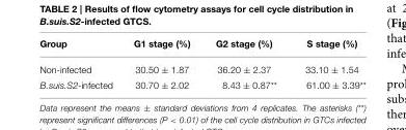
<table><thead><tr><td>Group</td><td>G1 stage (%)</td><td>G2 stage (%)</td><td>S stage (%)</td></tr></thead><tbody><tr><td>Non-infected</td><td>30.50 ± 1.87</td><td>36.20 ± 2.37</td><td>33.10 ± 1.54</td></tr><tr><td>B.suis.S2-infected</td><td>30.70 ± 2.02</td><td>8.43 ± 0.87**</td><td>61.00 ± 3.39**</td></tr></tbody></table>